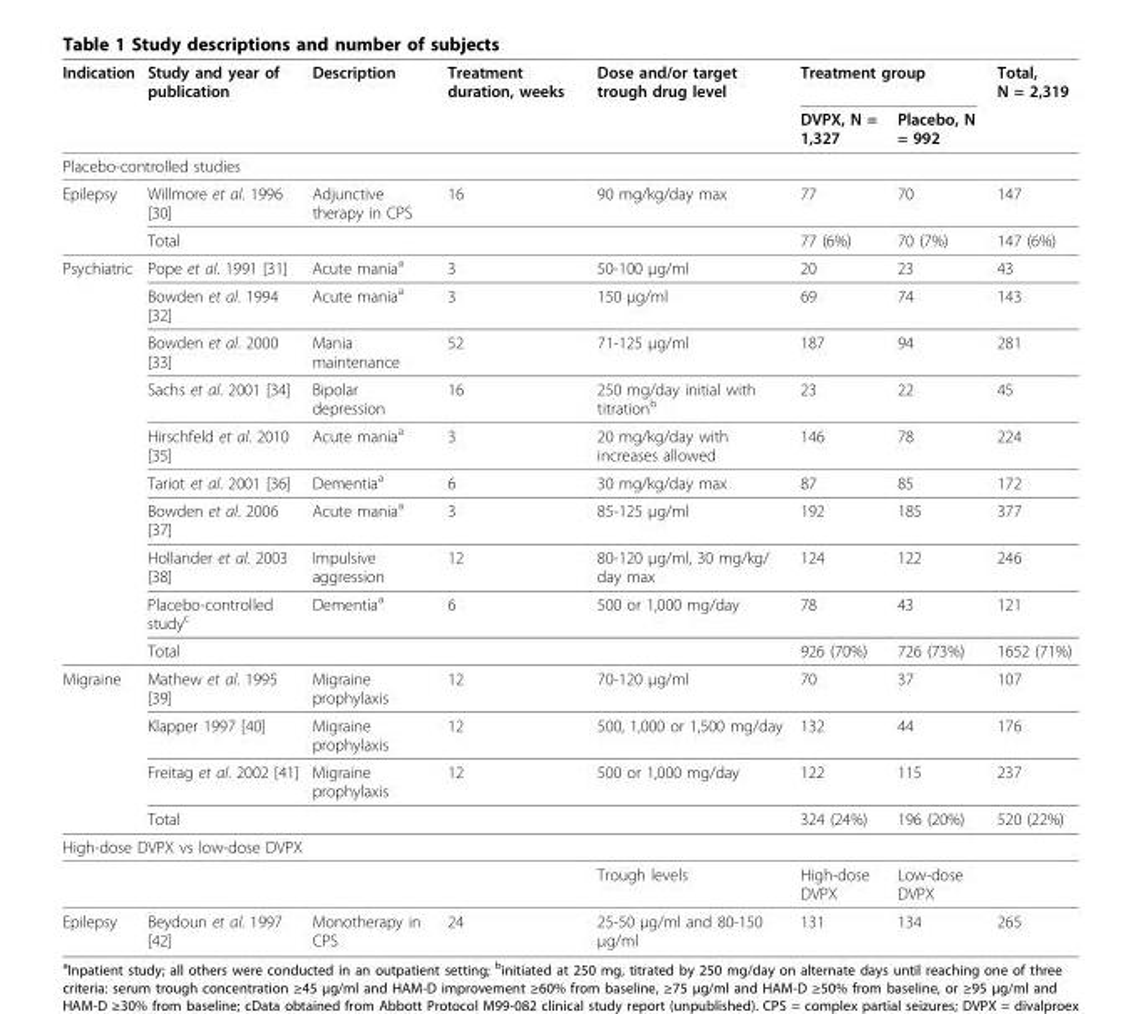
<table><thead><tr><td rowspan="2">Indication</td><td rowspan="2">Study and year of publication</td><td rowspan="2">Description</td><td rowspan="2">Treatment duration, weeks</td><td rowspan="2">Dose and/or target trough drug level</td><td colspan="2">Treatment group</td><td rowspan="2">Total, N = 2,319</td></tr><tr><td>DVPX, N = 1,327</td><td>Placebo, N = 992</td></tr></thead><tbody><tr><td colspan="8">Placebo-controlled studies</td></tr><tr><td rowspan="2">Epilepsy</td><td>Willmore et al. 1996 [30]</td><td>Adjunctive therapy in CPS</td><td>16</td><td>90 mg/kg/day max</td><td>77</td><td>70</td><td>147</td></tr><tr><td>Total</td><td></td><td></td><td></td><td>77 (6%)</td><td>70 (7%)</td><td>147 (6%)</td></tr><tr><td rowspan="10">Psychiatric</td><td>Pope et al. 1991 [31]</td><td>Acute mania<sup>a</sup></td><td>3</td><td>50-100 μg/ml</td><td>20</td><td>23</td><td>43</td></tr><tr><td>Bowden et al. 1994 [32]</td><td>Acute mania<sup>a</sup></td><td>3</td><td>150 μg/ml</td><td>69</td><td>74</td><td>143</td></tr><tr><td>Bowden et al. 2000 [33]</td><td>Mania maintenance</td><td>52</td><td>71-125 μg/ml</td><td>187</td><td>94</td><td>281</td></tr><tr><td>Sachs et al. 2001 [34]</td><td>Bipolar depression</td><td>16</td><td>250 mg/day initial with titration<sup>b</sup></td><td>23</td><td>22</td><td>45</td></tr><tr><td>Hirschfeld et al. 2010 [35]</td><td>Acute mania<sup>a</sup></td><td>3</td><td>20 mg/kg/day with increases allowed</td><td>146</td><td>78</td><td>224</td></tr><tr><td>Tariot et al. 2001 [36]</td><td>Dementia<sup>a</sup></td><td>6</td><td>30 mg/kg/day max</td><td>87</td><td>85</td><td>172</td></tr><tr><td>Bowden et al. 2006 [37]</td><td>Acute mania<sup>a</sup></td><td>3</td><td>85-125 μg/ml</td><td>192</td><td>185</td><td>377</td></tr><tr><td>Hollander et al. 2003 [38]</td><td>Impulsive aggression</td><td>12</td><td>80-120 μg/ml, 30 mg/kg/ day max</td><td>124</td><td>122</td><td>246</td></tr><tr><td>Placebo-controlled study<sup>c</sup></td><td>Dementia<sup>a</sup></td><td>6</td><td>500 or 1,000 mg/day</td><td>78</td><td>43</td><td>121</td></tr><tr><td>Total</td><td></td><td></td><td></td><td>926 (70%)</td><td>726 (73%)</td><td>1652 (71%)</td></tr><tr><td rowspan="4">Migraine</td><td>Mathew et al. 1995 [39]</td><td>Migraine prophylaxis</td><td>12</td><td>70-120 μg/ml</td><td>70</td><td>37</td><td>107</td></tr><tr><td>Klapper 1997 [40]</td><td>Migraine prophylaxis</td><td>12</td><td>500, 1,000 or 1,500 mg/day</td><td>132</td><td>44</td><td>176</td></tr><tr><td>Freitag et al. 2002 [41]</td><td>Migraine prophylaxis</td><td>12</td><td>500 or 1,000 mg/day</td><td>122</td><td>115</td><td>237</td></tr><tr><td>Total</td><td></td><td></td><td></td><td>324 (24%)</td><td>196 (20%)</td><td>520 (22%)</td></tr><tr><td colspan="8">High-dose DVPX vs low-dose DVPX</td></tr><tr><td></td><td></td><td></td><td></td><td>Trough levels</td><td>High-dose DVPX</td><td>Low-dose DVPX</td><td></td></tr><tr><td>Epilepsy</td><td>Beydoun et al. 1997 [42]</td><td>Monotherapy in CPS</td><td>24</td><td>25-50 μg/ml and 80-150 μg/ml</td><td>131</td><td>134</td><td>265</td></tr></tbody></table>